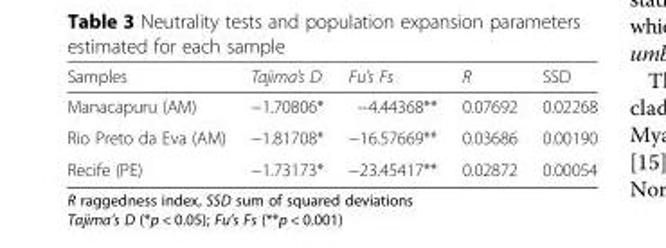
<table><thead><tr><td>Samples</td><td>Tajima’s D</td><td>Fu’s Fs</td><td>R</td><td>SSD</td></tr></thead><tbody><tr><td>Manacapuru (AM)</td><td>−1.70806*</td><td>−4.44368**</td><td>0.07692</td><td>0.02268</td></tr><tr><td>Rio Preto da Eva (AM)</td><td>−1.81708*</td><td>−16.57669**</td><td>0.03686</td><td>0.00190</td></tr><tr><td>Recife (PE)</td><td>−1.73173*</td><td>−23.45417**</td><td>0.02872</td><td>0.00054</td></tr></tbody></table>